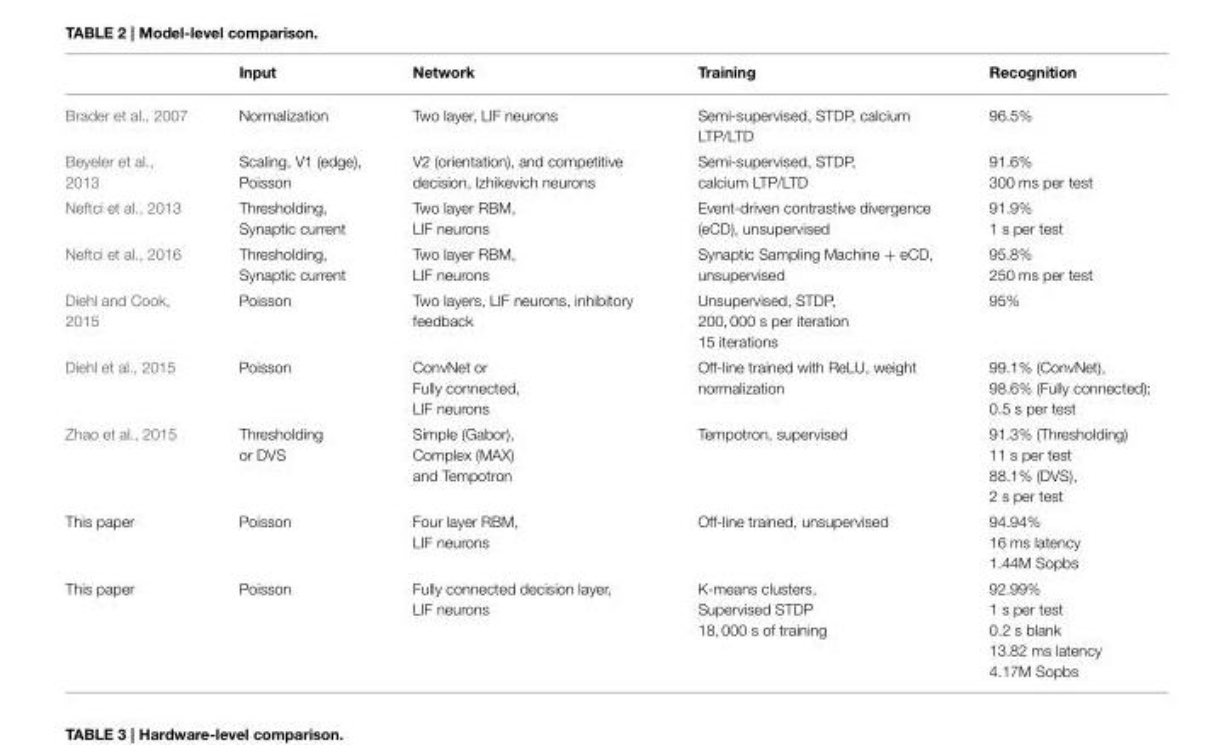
<table><thead><tr><td></td><td>Input</td><td>Network</td><td>Training</td><td>Recognition</td></tr></thead><tbody><tr><td>Brader et al., 2007</td><td>Normalization</td><td>Two layer, LIF neurons</td><td>Semi-supervised, STDP, calcium LTP/LTD</td><td>96.5%</td></tr><tr><td>Beyeler et al., 2013</td><td>Scaling, V1 (edge), Poisson</td><td>V2 (orientation), and competitive decision, Izhikevich neurons</td><td>Semi-supervised, STDP, calcium LTP/LTD</td><td>91.6% 300 ms per test</td></tr><tr><td>Neftci et al., 2013</td><td>Thresholding, Synaptic current</td><td>Two layer RBM, LIF neurons</td><td>Event-driven contrastive divergence (eCD), unsupervised</td><td>91.9% 1 s per test</td></tr><tr><td>Neftci et al., 2016</td><td>Thresholding, Synaptic current</td><td>Two layer RBM, LIF neurons</td><td>Synaptic Sampling Machine + eCD, unsupervised</td><td>95.8% 250 ms per test</td></tr><tr><td>Diehl and Cook, 2015</td><td>Poisson</td><td>Two layers, LIF neurons, inhibitory feedback</td><td>Unsupervised, STDP, 200, 000 s per iteration 15 iterations</td><td>95%</td></tr><tr><td>Diehl et al., 2015</td><td>Poisson</td><td>ConvNet or Fully connected, LIF neurons</td><td>Off-line trained with ReLU, weight normalization</td><td>99.1% (ConvNet), 98.6% (Fully connected); 0.5 s per test</td></tr><tr><td>Zhao et al., 2015</td><td>Thresholding or DVS</td><td>Simple (Gabor), Complex (MAX) and Tempotron</td><td>Tempotron, supervised</td><td>91.3% (Thresholding) 11 s per test 88.1% (DVS), 2 s per test</td></tr><tr><td>This paper</td><td>Poisson</td><td>Four layer RBM, LIF neurons</td><td>Off-line trained, unsupervised</td><td>94.94% 16 ms latency 1.44M Sopbs</td></tr><tr><td>This paper</td><td>Poisson</td><td>Fully connected decision layer, LIF neurons</td><td>K-means clusters, Supervised STDP 18, 000 s of training</td><td>92.99% 1 s per test 0.2 s blank 13.82 ms latency 4.17M Sopbs</td></tr></tbody></table>